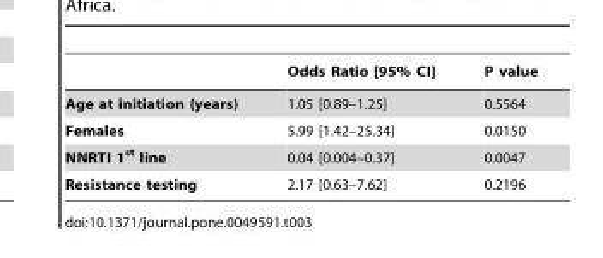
<table><thead><tr><td></td><td>Odds Ratio [95% CI]</td><td>P value</td></tr></thead><tbody><tr><td>Age at initiation (years)</td><td>1.05 [0.89–1.25]</td><td>0.5564</td></tr><tr><td>Females</td><td>5.99 [1.42–25.34]</td><td>0.0150</td></tr><tr><td>NNRTI 1<sup>st</sup> line</td><td>0.04 [0.004–0.37]</td><td>0.0047</td></tr><tr><td>Resistance testing</td><td>2.17 [0.63–7.62]</td><td>0.2196</td></tr></tbody></table>